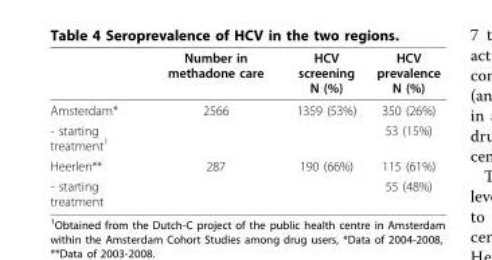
<table><thead><tr><td></td><td>Number in methadone care</td><td>HCV screening N (%)</td><td>HCV prevalence N (%)</td></tr></thead><tbody><tr><td>Amsterdam*</td><td>2566</td><td>1359 (53%)</td><td>350 (26%)</td></tr><tr><td>- starting treatment<sup>1</sup></td><td></td><td></td><td>53 (15%)</td></tr><tr><td>Heerlen**</td><td>287</td><td>190 (66%)</td><td>115 (61%)</td></tr><tr><td>- starting treatment</td><td></td><td></td><td>55 (48%)</td></tr></tbody></table>